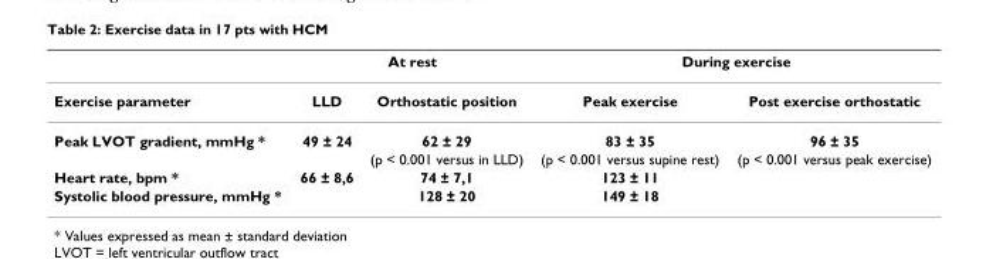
<table><thead><tr><td rowspan="2">Exercise parameter</td><td colspan="2">At rest</td><td colspan="2">During exercise</td></tr><tr><td>LLD</td><td>Orthostatic position</td><td>Peak exercise</td><td>Post exercise orthostatic</td></tr></thead><tbody><tr><td rowspan="2">Peak LVOT gradient, mmHg *</td><td>49 ± 24</td><td>62 ± 29</td><td>83 ± 35</td><td>96 ± 35</td></tr><tr><td></td><td>(p &lt; 0.001 versus in LLD)</td><td>(p &lt; 0.001 versus supine rest)</td><td>(p &lt; 0.001 versus peak exercise)</td></tr><tr><td>Heart rate, bpm *</td><td>66 ± 8,6</td><td>74 ± 7,1</td><td>123 ± 11</td><td></td></tr><tr><td>Systolic blood pressure, mmHg *</td><td></td><td>128 ± 20</td><td>149 ± 18</td><td></td></tr></tbody></table>